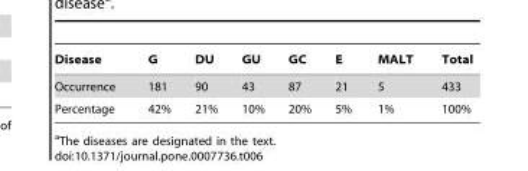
<table><thead><tr><td>Disease</td><td>G</td><td>DU</td><td>GU</td><td>GC</td><td>E</td><td>MALT</td><td>Total</td></tr></thead><tbody><tr><td>Occurrence</td><td>181</td><td>90</td><td>43</td><td>87</td><td>21</td><td>5</td><td>433</td></tr><tr><td>Percentage</td><td>42%</td><td>21%</td><td>10%</td><td>20%</td><td>5%</td><td>1%</td><td>100%</td></tr></tbody></table>